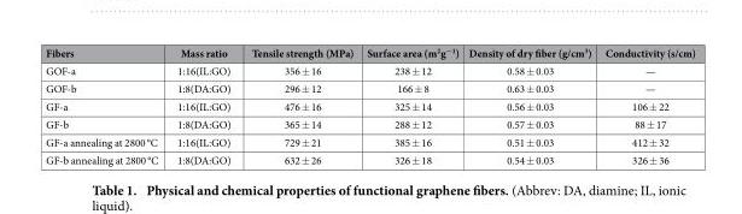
<table><thead><tr><td>Fibers</td><td>Mass ratio</td><td>Tensile strength (MPa)</td><td>Surface area (m<sup>2</sup>g<sup>−1</sup>)</td><td>Density of dry fiber (g/cm<sup>3</sup>)</td><td>Conductivity (s/cm)</td></tr></thead><tbody><tr><td>GOF-a</td><td>1:16(IL:GO)</td><td>356 ± 16</td><td>238 ± 12</td><td>0.58 ± 0.03</td><td>—</td></tr><tr><td>GOF-b</td><td>1:8(DA:GO)</td><td>296 ± 12</td><td>166 ± 8</td><td>0.63 ± 0.03</td><td>—</td></tr><tr><td>GF-a</td><td>1:16(IL:GO)</td><td>476 ± 16</td><td>325 ± 14</td><td>0.56 ± 0.03</td><td>106 ± 22</td></tr><tr><td>GF-b</td><td>1:8(DA:GO)</td><td>365 ± 14</td><td>288 ± 12</td><td>0.57 ± 0.03</td><td>88 ± 17</td></tr><tr><td>GF-a annealing at 2800 °C</td><td>1:16(IL:GO)</td><td>729 ± 21</td><td>385 ± 16</td><td>0.51 ± 0.03</td><td>412 ± 32</td></tr><tr><td>GF-b annealing at 2800 °C</td><td>1:8(DA:GO)</td><td>632 ± 26</td><td>326 ± 18</td><td>0.54 ± 0.03</td><td>326 ± 36</td></tr></tbody></table>